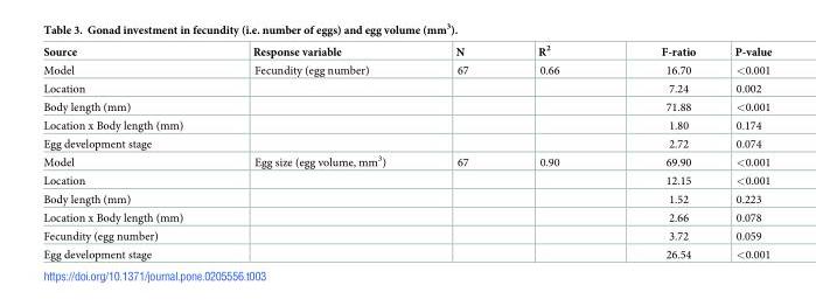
<table><thead><tr><td>Source</td><td>Response variable</td><td>N</td><td>R<sup>2</sup></td><td>F-ratio</td><td>P-value</td></tr></thead><tbody><tr><td>Model</td><td>Fecundity (egg number)</td><td>67</td><td>0.66</td><td>16.70</td><td>&lt;0.001</td></tr><tr><td>Location</td><td></td><td></td><td></td><td>7.24</td><td>0.002</td></tr><tr><td>Body length (mm)</td><td></td><td></td><td></td><td>71.88</td><td>&lt;0.001</td></tr><tr><td>Location x Body length (mm)</td><td></td><td></td><td></td><td>1.80</td><td>0.174</td></tr><tr><td>Egg development stage</td><td></td><td></td><td></td><td>2.72</td><td>0.074</td></tr><tr><td>Model</td><td>Egg size (egg volume, mm<sup>3</sup>)</td><td>67</td><td>0.90</td><td>69.90</td><td>&lt;0.001</td></tr><tr><td>Location</td><td></td><td></td><td></td><td>12.15</td><td>&lt;0.001</td></tr><tr><td>Body length (mm)</td><td></td><td></td><td></td><td>1.52</td><td>0.223</td></tr><tr><td>Location x Body length (mm)</td><td></td><td></td><td></td><td>2.66</td><td>0.078</td></tr><tr><td>Fecundity (egg number)</td><td></td><td></td><td></td><td>3.72</td><td>0.059</td></tr><tr><td>Egg development stage</td><td></td><td></td><td></td><td>26.54</td><td>&lt;0.001</td></tr></tbody></table>